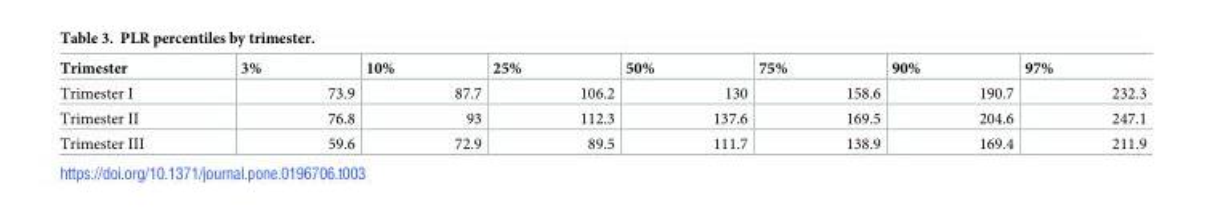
<table><thead><tr><td>Trimester</td><td>3%</td><td>10%</td><td>25%</td><td>50%</td><td>75%</td><td>90%</td><td>97%</td></tr></thead><tbody><tr><td>Trimester I</td><td>73.9</td><td>87.7</td><td>106.2</td><td>130</td><td>158.6</td><td>190.7</td><td>232.3</td></tr><tr><td>Trimester II</td><td>76.8</td><td>93</td><td>112.3</td><td>137.6</td><td>169.5</td><td>204.6</td><td>247.1</td></tr><tr><td>Trimester III</td><td>59.6</td><td>72.9</td><td>89.5</td><td>111.7</td><td>138.9</td><td>169.4</td><td>211.9</td></tr></tbody></table>